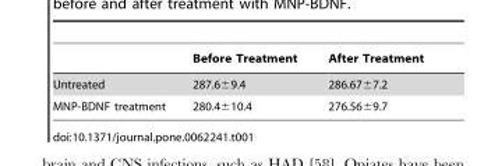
<table><thead><tr><td></td><td>Before Treatment</td><td>After Treatment</td></tr></thead><tbody><tr><td>Untreated</td><td>287.6±9.4</td><td>286.67±7.2</td></tr><tr><td>MNP-BDNF treatment</td><td>280.4±10.4</td><td>276.56±9.7</td></tr></tbody></table>